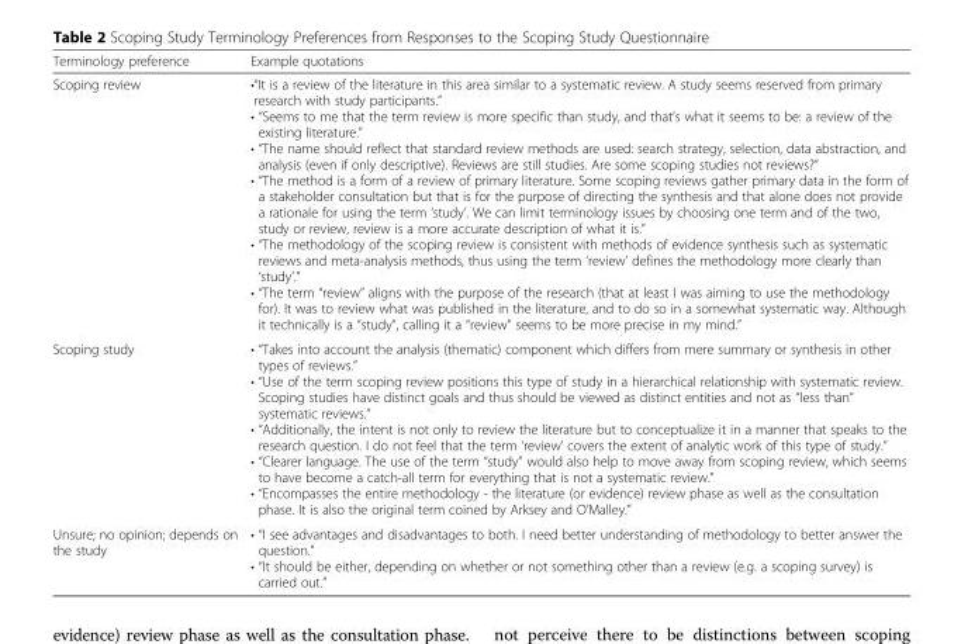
<table><thead><tr><td>Terminology preference</td><td>Example quotations</td></tr></thead><tbody><tr><td>Scoping review</td><td>•“It is a review of the literature in this area similar to a systematic review. A study seems reserved from primary research with study participants.” • “Seems to me that the term review is more specific than study, and that’s what it seems to be: a review of the existing literature.” • “The name should reflect that standard review methods are used: search strategy, selection, data abstraction, and analysis (even if only descriptive). Reviews are still studies. Are some scoping studies not reviews?” • “The method is a form of a review of primary literature. Some scoping reviews gather primary data in the form of a stakeholder consultation but that is for the purpose of directing the synthesis and that alone does not provide a rationale for using the term ‘study’. We can limit terminology issues by choosing one term and of the two, study or review, review is a more accurate description of what it is.” • “The methodology of the scoping review is consistent with methods of evidence synthesis such as systematic reviews and meta-analysis methods, thus using the term ‘review’ defines the methodology more clearly than ‘study’.” • “The term “review” aligns with the purpose of the research (that at least I was aiming to use the methodology for). It was to review what was published in the literature, and to do so in a somewhat systematic way. Although it technically is a “study”, calling it a “review” seems to be more precise in my mind.”</td></tr><tr><td>Scoping study</td><td>• “Takes into account the analysis (thematic) component which differs from mere summary or synthesis in other types of reviews.” • “Use of the term scoping review positions this type of study in a hierarchical relationship with systematic review. Scoping studies have distinct goals and thus should be viewed as distinct entities and not as “less than” systematic reviews.” • “Additionally, the intent is not only to review the literature but to conceptualize it in a manner that speaks to the research question. I do not feel that the term ‘review’ covers the extent of analytic work of this type of study.” • “Clearer language. The use of the term “study” would also help to move away from scoping review, which seems to have become a catch-all term for everything that is not a systematic review.” • “Encompasses the entire methodology - the literature (or evidence) review phase as well as the consultation phase. It is also the original term coined by Arksey and O’Malley.”</td></tr><tr><td>Unsure; no opinion; depends on the study</td><td>• “I see advantages and disadvantages to both. I need better understanding of methodology to better answer the question.” • “It should be either, depending on whether or not something other than a review (e.g. a scoping survey) is carried out.”</td></tr></tbody></table>